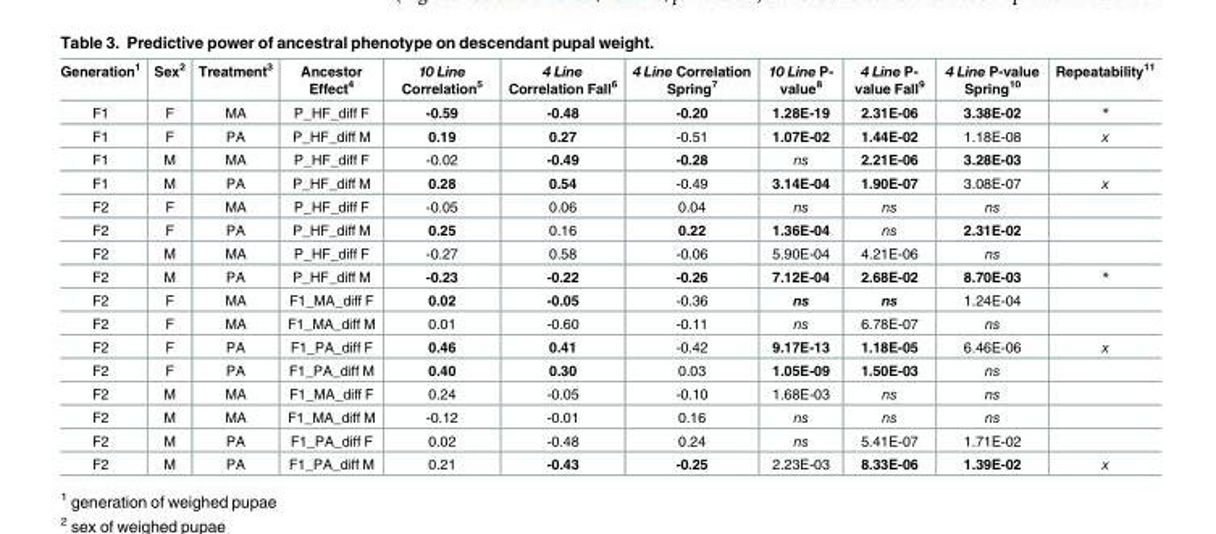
<table><thead><tr><td>Generation<sup>1</sup></td><td>Sex<sup>2</sup></td><td>Treatment<sup>3</sup></td><td>Ancestor Effect<sup>4</sup></td><td>10 Line Correlation<sup>5</sup></td><td>4 Line Correlation Fall<sup>6</sup></td><td>4 Line Correlation Spring<sup>7</sup></td><td>10 Line P- value<sup>8</sup></td><td>4 Line P- value Fall<sup>9</sup></td><td>4 Line P-value Spring<sup>10</sup></td><td>Repeatability<sup>11</sup></td></tr></thead><tbody><tr><td>F1</td><td>F</td><td>MA</td><td>P_HF_diff F</td><td>-0.59</td><td>-0.48</td><td>-0.20</td><td>1.28E-19</td><td>2.31E-06</td><td>3.38E-02</td><td>*</td></tr><tr><td>F1</td><td>F</td><td>PA</td><td>P_HF_diff M</td><td>0.19</td><td>0.27</td><td>-0.51</td><td>1.07E-02</td><td>1.44E-02</td><td>1.18E-08</td><td>x</td></tr><tr><td>F1</td><td>M</td><td>MA</td><td>P_HF_diff F</td><td>-0.02</td><td>-0.49</td><td>-0.28</td><td>ns</td><td>2.21E-06</td><td>3.28E-03</td><td></td></tr><tr><td>F1</td><td>M</td><td>PA</td><td>P_HF_diff M</td><td>0.28</td><td>0.54</td><td>-0.49</td><td>3.14E-04</td><td>1.90E-07</td><td>3.08E-07</td><td>x</td></tr><tr><td>F2</td><td>F</td><td>MA</td><td>P_HF_diff F</td><td>-0.05</td><td>0.06</td><td>0.04</td><td>ns</td><td>ns</td><td>ns</td><td></td></tr><tr><td>F2</td><td>F</td><td>PA</td><td>P_HF_diff M</td><td>0.25</td><td>0.16</td><td>0.22</td><td>1.36E-04</td><td>ns</td><td>2.31E-02</td><td></td></tr><tr><td>F2</td><td>M</td><td>MA</td><td>P_HF_diff F</td><td>-0.27</td><td>0.58</td><td>-0.06</td><td>5.90E-04</td><td>4.21E-06</td><td>ns</td><td></td></tr><tr><td>F2</td><td>M</td><td>PA</td><td>P_HF_diff M</td><td>-0.23</td><td>-0.22</td><td>-0.26</td><td>7.12E-04</td><td>2.68E-02</td><td>8.70E-03</td><td>*</td></tr><tr><td>F2</td><td>F</td><td>MA</td><td>F1_MA_diff F</td><td>0.02</td><td>-0.05</td><td>-0.36</td><td>ns</td><td>ns</td><td>1.24E-04</td><td></td></tr><tr><td>F2</td><td>F</td><td>MA</td><td>F1_MA_diff M</td><td>0.01</td><td>-0.60</td><td>-0.11</td><td>ns</td><td>6.78E-07</td><td>ns</td><td></td></tr><tr><td>F2</td><td>F</td><td>PA</td><td>F1_PA_diff F</td><td>0.46</td><td>0.41</td><td>-0.42</td><td>9.17E-13</td><td>1.18E-05</td><td>6.46E-06</td><td>x</td></tr><tr><td>F2</td><td>F</td><td>PA</td><td>F1_PA_diff M</td><td>0.40</td><td>0.30</td><td>0.03</td><td>1.05E-09</td><td>1.50E-03</td><td>ns</td><td></td></tr><tr><td>F2</td><td>M</td><td>MA</td><td>F1_MA_diff F</td><td>0.24</td><td>-0.05</td><td>-0.10</td><td>1.68E-03</td><td>ns</td><td>ns</td><td></td></tr><tr><td>F2</td><td>M</td><td>MA</td><td>F1_MA_diff M</td><td>-0.12</td><td>-0.01</td><td>0.16</td><td>ns</td><td>ns</td><td>ns</td><td></td></tr><tr><td>F2</td><td>M</td><td>PA</td><td>F1_PA_diff F</td><td>0.02</td><td>-0.48</td><td>0.24</td><td>ns</td><td>5.41E-07</td><td>1.71E-02</td><td></td></tr><tr><td>F2</td><td>M</td><td>PA</td><td>F1_PA_diff M</td><td>0.21</td><td>-0.43</td><td>-0.25</td><td>2.23E-03</td><td>8.33E-06</td><td>1.39E-02</td><td>x</td></tr></tbody></table>